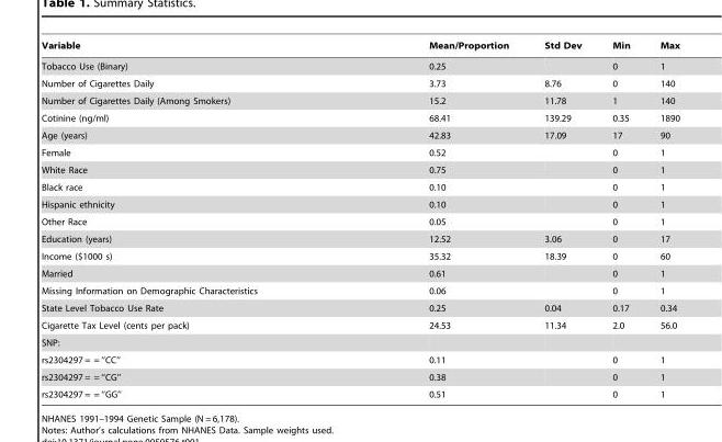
<table><thead><tr><td>Variable</td><td>Mean/Proportion</td><td>Std Dev</td><td>Min</td><td>Max</td></tr></thead><tbody><tr><td>Tobacco Use (Binary)</td><td>0.25</td><td></td><td>0</td><td>1</td></tr><tr><td>Number of Cigarettes Daily</td><td>3.73</td><td>8.76</td><td>0</td><td>140</td></tr><tr><td>Number of Cigarettes Daily (Among Smokers)</td><td>15.2</td><td>11.78</td><td>1</td><td>140</td></tr><tr><td>Cotinine (ng/ml)</td><td>68.41</td><td>139.29</td><td>0.35</td><td>1890</td></tr><tr><td>Age (years)</td><td>42.83</td><td>17.09</td><td>17</td><td>90</td></tr><tr><td>Female</td><td>0.52</td><td></td><td>0</td><td>1</td></tr><tr><td>White Race</td><td>0.75</td><td></td><td>0</td><td>1</td></tr><tr><td>Black race</td><td>0.10</td><td></td><td>0</td><td>1</td></tr><tr><td>Hispanic ethnicity</td><td>0.10</td><td></td><td>0</td><td>1</td></tr><tr><td>Other Race</td><td>0.05</td><td></td><td>0</td><td>1</td></tr><tr><td>Education (years)</td><td>12.52</td><td>3.06</td><td>0</td><td>17</td></tr><tr><td>Income ($1000 s)</td><td>35.32</td><td>18.39</td><td>0</td><td>60</td></tr><tr><td>Married</td><td>0.61</td><td></td><td>0</td><td>1</td></tr><tr><td>Missing Information on Demographic Characteristics</td><td>0.06</td><td></td><td>0</td><td>1</td></tr><tr><td>State Level Tobacco Use Rate</td><td>0.25</td><td>0.04</td><td>0.17</td><td>0.34</td></tr><tr><td>Cigarette Tax Level (cents per pack)</td><td>24.53</td><td>11.34</td><td>2.0</td><td>56.0</td></tr><tr><td colspan="5">SNP:</td></tr><tr><td>rs2304297 = = ‘‘CC’’</td><td>0.11</td><td></td><td>0</td><td>1</td></tr><tr><td>rs2304297 = = ‘‘CG’’</td><td>0.38</td><td></td><td>0</td><td>1</td></tr><tr><td>rs2304297 = = ‘‘GG’’</td><td>0.51</td><td></td><td>0</td><td>1</td></tr></tbody></table>